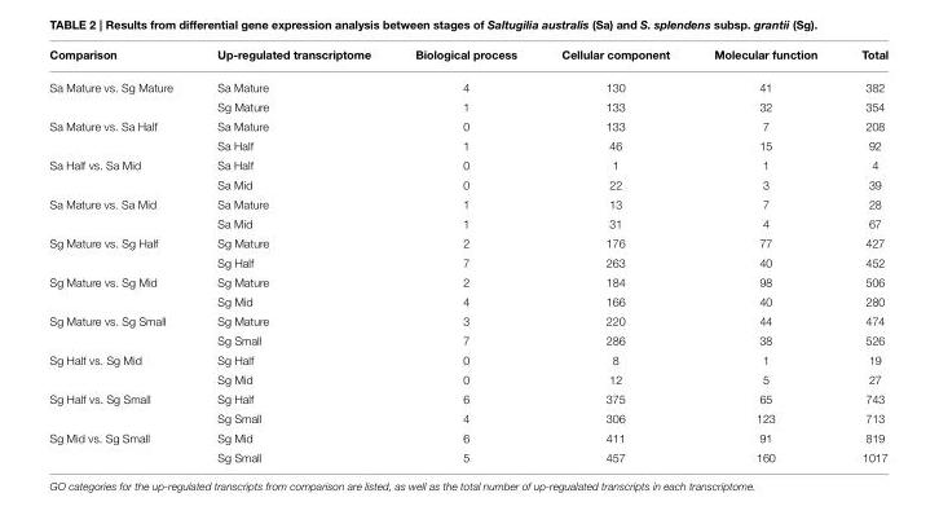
<table><thead><tr><td>Comparison</td><td>Up-regulated transcriptome</td><td>Biological process</td><td>Cellular component</td><td>Molecular function</td><td>Total</td></tr></thead><tbody><tr><td rowspan="2">Sa Mature vs. Sg Mature</td><td>Sa Mature</td><td>4</td><td>130</td><td>41</td><td>382</td></tr><tr><td>Sg Mature</td><td>1</td><td>133</td><td>32</td><td>354</td></tr><tr><td rowspan="2">Sa Mature vs. Sa Half</td><td>Sa Mature</td><td>0</td><td>133</td><td>7</td><td>208</td></tr><tr><td>Sa Half</td><td>1</td><td>46</td><td>15</td><td>92</td></tr><tr><td rowspan="2">Sa Half vs. Sa Mid</td><td>Sa Half</td><td>0</td><td>1</td><td>1</td><td>4</td></tr><tr><td>Sa Mid</td><td>0</td><td>22</td><td>3</td><td>39</td></tr><tr><td rowspan="2">Sa Mature vs. Sa Mid</td><td>Sa Mature</td><td>1</td><td>13</td><td>7</td><td>28</td></tr><tr><td>Sa Mid</td><td>1</td><td>31</td><td>4</td><td>67</td></tr><tr><td rowspan="2">Sg Mature vs. Sg Half</td><td>Sg Mature</td><td>2</td><td>176</td><td>77</td><td>427</td></tr><tr><td>Sg Half</td><td>7</td><td>263</td><td>40</td><td>452</td></tr><tr><td rowspan="2">Sg Mature vs. Sg Mid</td><td>Sg Mature</td><td>2</td><td>184</td><td>98</td><td>506</td></tr><tr><td>Sg Mid</td><td>4</td><td>166</td><td>40</td><td>280</td></tr><tr><td rowspan="2">Sg Mature vs. Sg Small</td><td>Sg Mature</td><td>3</td><td>220</td><td>44</td><td>474</td></tr><tr><td>Sg Small</td><td>7</td><td>286</td><td>38</td><td>526</td></tr><tr><td rowspan="2">Sg Half vs. Sg Mid</td><td>Sg Half</td><td>0</td><td>8</td><td>1</td><td>19</td></tr><tr><td>Sg Mid</td><td>0</td><td>12</td><td>5</td><td>27</td></tr><tr><td rowspan="2">Sg Half vs. Sg Small</td><td>Sg Half</td><td>6</td><td>375</td><td>65</td><td>743</td></tr><tr><td>Sg Small</td><td>4</td><td>306</td><td>123</td><td>713</td></tr><tr><td rowspan="2">Sg Mid vs. Sg Small</td><td>Sg Mid</td><td>6</td><td>411</td><td>91</td><td>819</td></tr><tr><td>Sg Small</td><td>5</td><td>457</td><td>160</td><td>1017</td></tr></tbody></table>